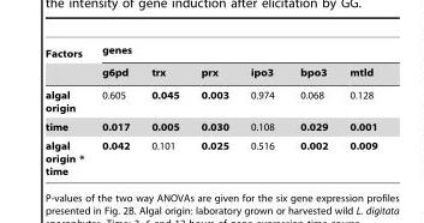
<table><thead><tr><td rowspan="2">Factors</td><td colspan="6">genes</td></tr><tr><td>g6pd</td><td>trx</td><td>prx</td><td>ipo3</td><td>bpo3</td><td>mtld</td></tr></thead><tbody><tr><td>algal origin</td><td>0.605</td><td>0.045</td><td>0.003</td><td>0.974</td><td>0.068</td><td>0.128</td></tr><tr><td>time</td><td>0.017</td><td>0.005</td><td>0.030</td><td>0.108</td><td>0.029</td><td>0.001</td></tr><tr><td>algal origin * time</td><td>0.042</td><td>0.101</td><td>0.025</td><td>0.516</td><td>0.002</td><td>0.009</td></tr></tbody></table>